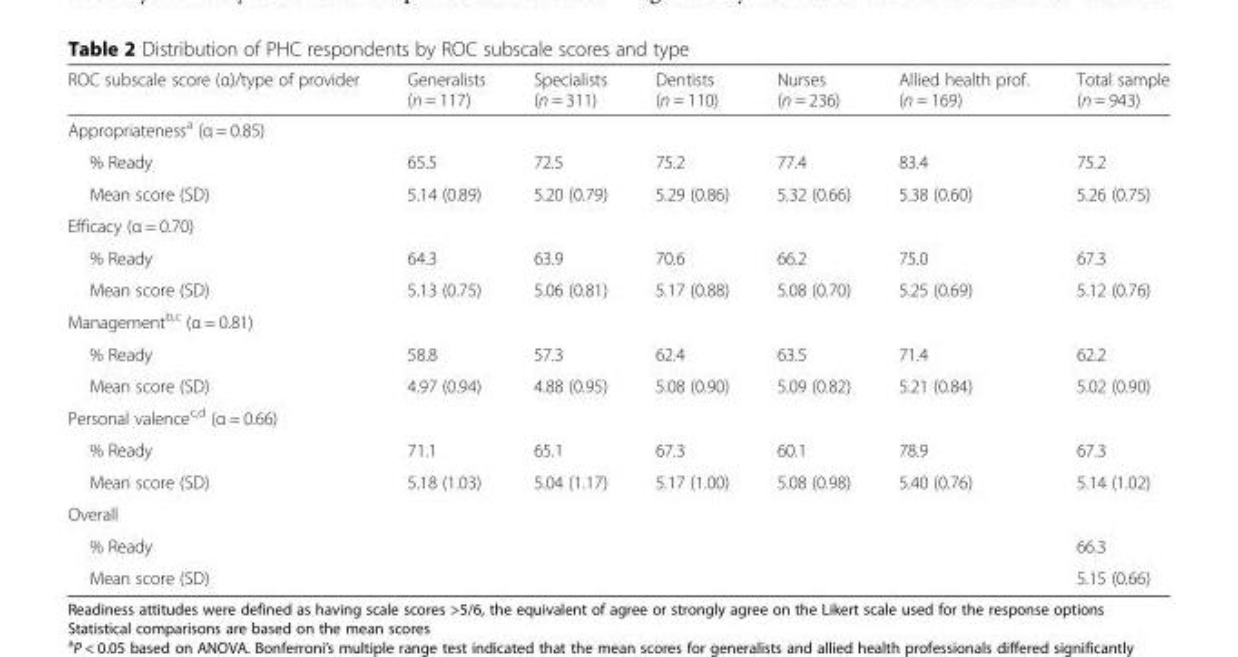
<table><thead><tr><td>ROC subscale score (α)/type of provider</td><td>Generalists (n = 117)</td><td>Specialists (n = 311)</td><td>Dentists (n = 110)</td><td>Nurses (n = 236)</td><td>Allied health prof. (n = 169)</td><td>Total sample (n = 943)</td></tr></thead><tbody><tr><td colspan="7">Appropriateness<sup>a</sup> (α = 0.85)</td></tr><tr><td>% Ready</td><td>65.5</td><td>72.5</td><td>75.2</td><td>77.4</td><td>83.4</td><td>75.2</td></tr><tr><td>Mean score (SD)</td><td>5.14 (0.89)</td><td>5.20 (0.79)</td><td>5.29 (0.86)</td><td>5.32 (0.66)</td><td>5.38 (0.60)</td><td>5.26 (0.75)</td></tr><tr><td colspan="7">Efficacy (α = 0.70)</td></tr><tr><td>% Ready</td><td>64.3</td><td>63.9</td><td>70.6</td><td>66.2</td><td>75.0</td><td>67.3</td></tr><tr><td>Mean score (SD)</td><td>5.13 (0.75)</td><td>5.06 (0.81)</td><td>5.17 (0.88)</td><td>5.08 (0.70)</td><td>5.25 (0.69)</td><td>5.12 (0.76)</td></tr><tr><td colspan="7">Management<sup>b,c</sup> (α = 0.81)</td></tr><tr><td>% Ready</td><td>58.8</td><td>57.3</td><td>62.4</td><td>63.5</td><td>71.4</td><td>62.2</td></tr><tr><td>Mean score (SD)</td><td>4.97 (0.94)</td><td>4.88 (0.95)</td><td>5.08 (0.90)</td><td>5.09 (0.82)</td><td>5.21 (0.84)</td><td>5.02 (0.90)</td></tr><tr><td colspan="7">Personal valence<sup>c,d</sup> (α = 0.66)</td></tr><tr><td>% Ready</td><td>71.1</td><td>65.1</td><td>67.3</td><td>60.1</td><td>78.9</td><td>67.3</td></tr><tr><td>Mean score (SD)</td><td>5.18 (1.03)</td><td>5.04 (1.17)</td><td>5.17 (1.00)</td><td>5.08 (0.98)</td><td>5.40 (0.76)</td><td>5.14 (1.02)</td></tr><tr><td colspan="7">Overall</td></tr><tr><td>% Ready</td><td></td><td></td><td></td><td></td><td></td><td>66.3</td></tr><tr><td>Mean score (SD)</td><td></td><td></td><td></td><td></td><td></td><td>5.15 (0.66)</td></tr></tbody></table>